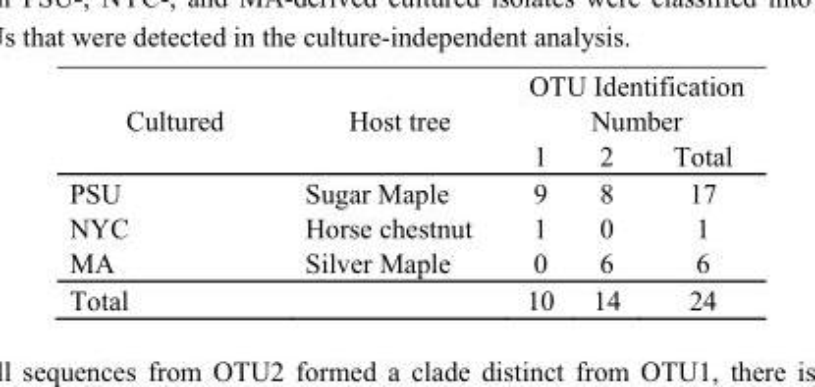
<table><thead><tr><td rowspan="2">Cultured</td><td rowspan="2">Host tree</td><td colspan="3">OTU Identification Number</td></tr><tr><td>1</td><td>2</td><td>Total</td></tr></thead><tbody><tr><td>PSU</td><td>Sugar Maple</td><td>9</td><td>8</td><td>17</td></tr><tr><td>NYC</td><td>Horse chestnut</td><td>1</td><td>0</td><td>1</td></tr><tr><td>MA</td><td>Silver Maple</td><td>0</td><td>6</td><td>6</td></tr><tr><td>Total</td><td></td><td>10</td><td>14</td><td>24</td></tr></tbody></table>